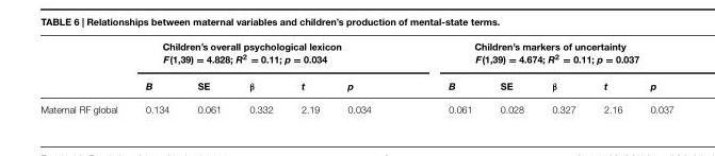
<table><thead><tr><td rowspan="2"></td><td colspan="5">Children’s overall psychological lexicon F(1,39) = 4.828; R<sup>2</sup> = 0.11; p = 0.034</td><td colspan="5">Children’s markers of uncertainty F(1,39) = 4.674; R<sup>2</sup> = 0.11; p = 0.037</td></tr><tr><td>B</td><td>SE</td><td>β</td><td>t</td><td>p</td><td>B</td><td>SE</td><td>β</td><td>t</td><td>p</td></tr></thead><tbody><tr><td>Maternal RF global</td><td>0.134</td><td>0.061</td><td>0.332</td><td>2.19</td><td>0.034</td><td>0.061</td><td>0.028</td><td>0.327</td><td>2.16</td><td>0.037</td></tr></tbody></table>